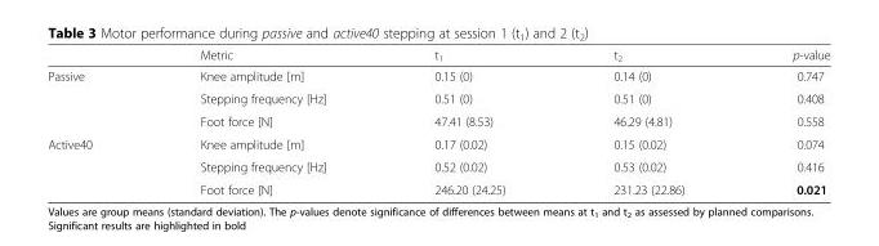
<table><thead><tr><td></td><td>Metric</td><td>t<sub>1</sub></td><td>t<sub>2</sub></td><td>p-value</td></tr></thead><tbody><tr><td rowspan="3">Passive</td><td>Knee amplitude [m]</td><td>0.15 (0)</td><td>0.14 (0)</td><td>0.747</td></tr><tr><td>Stepping frequency [Hz]</td><td>0.51 (0)</td><td>0.51 (0)</td><td>0.408</td></tr><tr><td>Foot force [N]</td><td>47.41 (8.53)</td><td>46.29 (4.81)</td><td>0.558</td></tr><tr><td rowspan="3">Active40</td><td>Knee amplitude [m]</td><td>0.17 (0.02)</td><td>0.15 (0.02)</td><td>0.074</td></tr><tr><td>Stepping frequency [Hz]</td><td>0.52 (0.02)</td><td>0.53 (0.02)</td><td>0.416</td></tr><tr><td>Foot force [N]</td><td>246.20 (24.25)</td><td>231.23 (22.86)</td><td>0.021</td></tr></tbody></table>